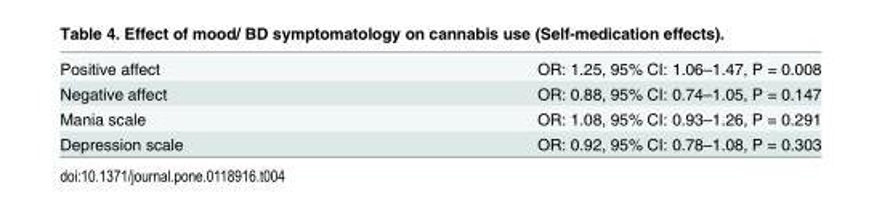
<table><tbody><tr><td>Positive affect</td><td>OR: 1.25, 95% CI: 1.06–1.47, P = 0.008</td></tr><tr><td>Negative affect</td><td>OR: 0.88, 95% CI: 0.74–1.05, P = 0.147</td></tr><tr><td>Mania scale</td><td>OR: 1.08, 95% CI: 0.93–1.26, P = 0.291</td></tr><tr><td>Depression scale</td><td>OR: 0.92, 95% CI: 0.78–1.08, P = 0.303</td></tr></tbody></table>